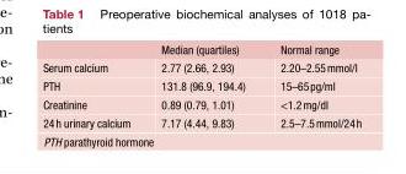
<table><thead><tr><td></td><td>Median (quartiles)</td><td>Normal range</td></tr></thead><tbody><tr><td>Serum calcium</td><td>2.77 (2.66, 2.93)</td><td>2.20–2.55mmol/l</td></tr><tr><td>PTH</td><td>131.8 (96.9, 194.4)</td><td>15–65pg/ml</td></tr><tr><td>Creatinine</td><td>0.89 (0.79, 1.01)</td><td>&lt;1.2mg/dl</td></tr><tr><td>24h urinary calcium</td><td>7.17 (4.44, 9.83)</td><td>2.5–7.5mmol/24h</td></tr></tbody></table>